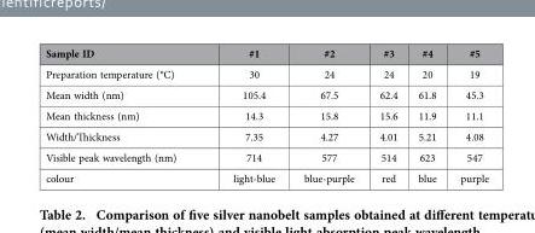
<table><thead><tr><td>Sample ID</td><td>#1</td><td>#2</td><td>#3</td><td>#4</td><td>#5</td></tr></thead><tbody><tr><td>Preparation temperature (°C)</td><td>30</td><td>24</td><td>24</td><td>20</td><td>19</td></tr><tr><td>Mean width (nm)</td><td>105.4</td><td>67.5</td><td>62.4</td><td>61.8</td><td>45.3</td></tr><tr><td>Mean thickness (nm)</td><td>14.3</td><td>15.8</td><td>15.6</td><td>11.9</td><td>11.1</td></tr><tr><td>Width/Thickness</td><td>7.35</td><td>4.27</td><td>4.01</td><td>5.21</td><td>4.08</td></tr><tr><td>Visible peak wavelength (nm)</td><td>714</td><td>577</td><td>514</td><td>623</td><td>547</td></tr><tr><td>colour</td><td>light-blue</td><td>blue-purple</td><td>red</td><td>blue</td><td>purple</td></tr></tbody></table>